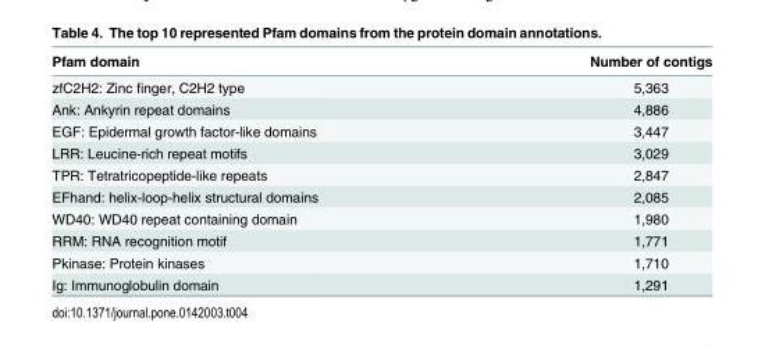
<table><thead><tr><td>Pfam domain</td><td>Number of contigs</td></tr></thead><tbody><tr><td>zfC2H2: Zinc finger, C2H2 type</td><td>5,363</td></tr><tr><td>Ank: Ankyrin repeat domains</td><td>4,886</td></tr><tr><td>EGF: Epidermal growth factor-like domains</td><td>3,447</td></tr><tr><td>LRR: Leucine-rich repeat motifs</td><td>3,029</td></tr><tr><td>TPR: Tetratricopeptide-like repeats</td><td>2,847</td></tr><tr><td>EFhand: helix-loop-helix structural domains</td><td>2,085</td></tr><tr><td>WD40: WD40 repeat containing domain</td><td>1,980</td></tr><tr><td>RRM: RNA recognition motif</td><td>1,771</td></tr><tr><td>Pkinase: Protein kinases</td><td>1,710</td></tr><tr><td>Ig: Immunoglobulin domain</td><td>1,291</td></tr></tbody></table>